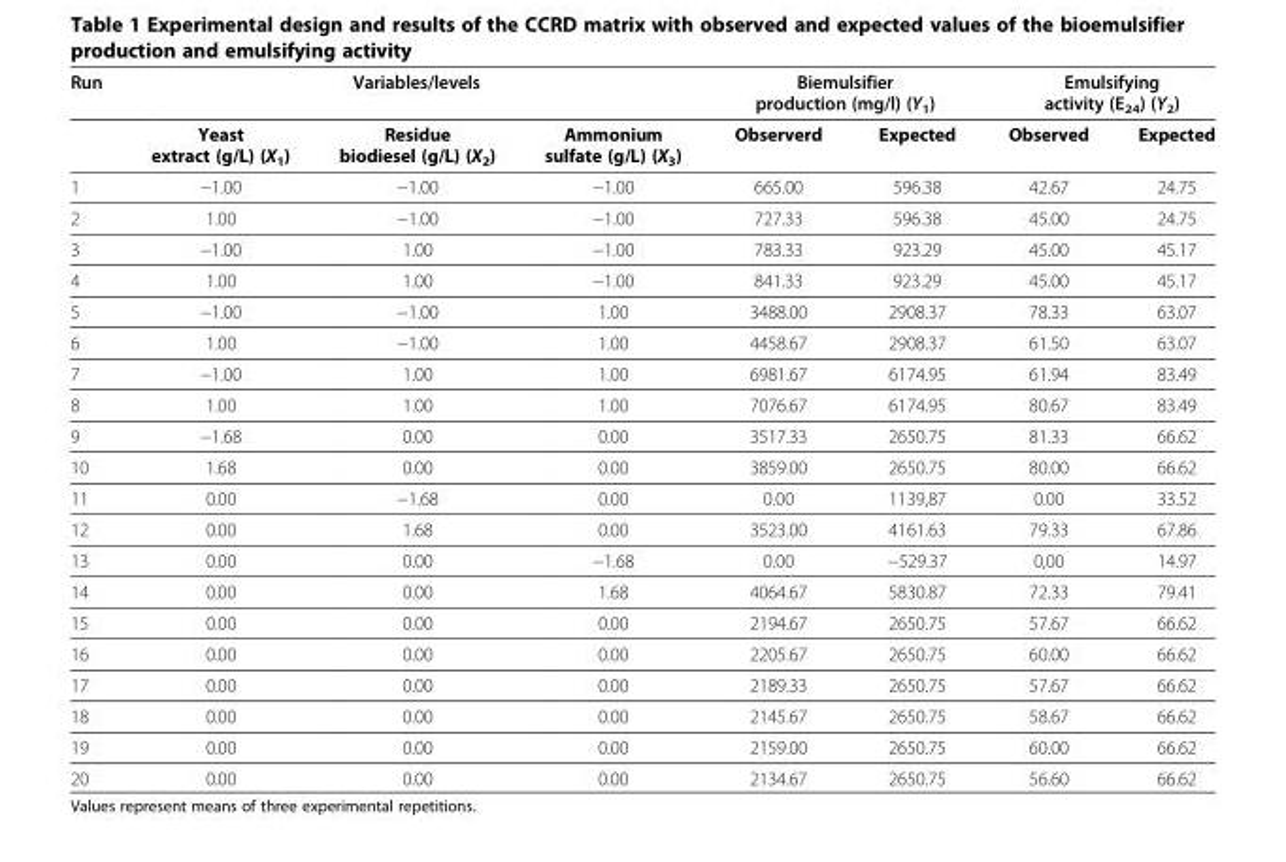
<table><thead><tr><td rowspan="2">Run</td><td colspan="3">Variables/levels</td><td colspan="2">Biemulsifier production (mg/l) (Y<sub>1</sub>)</td><td colspan="2">Emulsifying activity (E<sub>24</sub>) (Y<sub>2</sub>)</td></tr><tr><td>Yeast extract (g/L) (X<sub>1</sub>)</td><td>Residue biodiesel (g/L) (X<sub>2</sub>)</td><td>Ammonium sulfate (g/L) (X<sub>3</sub>)</td><td>Observerd</td><td>Expected</td><td>Observed</td><td>Expected</td></tr></thead><tbody><tr><td>1</td><td>−1.00</td><td>−1.00</td><td>−1.00</td><td>665.00</td><td>596.38</td><td>42.67</td><td>24.75</td></tr><tr><td>2</td><td>1.00</td><td>−1.00</td><td>−1.00</td><td>727.33</td><td>596.38</td><td>45.00</td><td>24.75</td></tr><tr><td>3</td><td>−1.00</td><td>1.00</td><td>−1.00</td><td>783.33</td><td>923.29</td><td>45.00</td><td>45.17</td></tr><tr><td>4</td><td>1.00</td><td>1.00</td><td>−1.00</td><td>841.33</td><td>923.29</td><td>45.00</td><td>45.17</td></tr><tr><td>5</td><td>−1.00</td><td>−1.00</td><td>1.00</td><td>3488.00</td><td>2908.37</td><td>78.33</td><td>63.07</td></tr><tr><td>6</td><td>1.00</td><td>−1.00</td><td>1.00</td><td>4458.67</td><td>2908.37</td><td>61.50</td><td>63.07</td></tr><tr><td>7</td><td>−1.00</td><td>1.00</td><td>1.00</td><td>6981.67</td><td>6174.95</td><td>61.94</td><td>83.49</td></tr><tr><td>8</td><td>1.00</td><td>1.00</td><td>1.00</td><td>7076.67</td><td>6174.95</td><td>80.67</td><td>83.49</td></tr><tr><td>9</td><td>−1.68</td><td>0.00</td><td>0.00</td><td>3517.33</td><td>2650.75</td><td>81.33</td><td>66.62</td></tr><tr><td>10</td><td>1.68</td><td>0.00</td><td>0.00</td><td>3859.00</td><td>2650.75</td><td>80.00</td><td>66.62</td></tr><tr><td>11</td><td>0.00</td><td>−1.68</td><td>0.00</td><td>0.00</td><td>1139,87</td><td>0.00</td><td>33.52</td></tr><tr><td>12</td><td>0.00</td><td>1.68</td><td>0.00</td><td>3523.00</td><td>4161.63</td><td>79.33</td><td>67.86</td></tr><tr><td>13</td><td>0.00</td><td>0.00</td><td>−1.68</td><td>0.00</td><td>−529.37</td><td>0,00</td><td>14.97</td></tr><tr><td>14</td><td>0.00</td><td>0.00</td><td>1.68</td><td>4064.67</td><td>5830.87</td><td>72.33</td><td>79.41</td></tr><tr><td>15</td><td>0.00</td><td>0.00</td><td>0.00</td><td>2194.67</td><td>2650.75</td><td>57.67</td><td>66.62</td></tr><tr><td>16</td><td>0.00</td><td>0.00</td><td>0.00</td><td>2205.67</td><td>2650.75</td><td>60.00</td><td>66.62</td></tr><tr><td>17</td><td>0.00</td><td>0.00</td><td>0.00</td><td>2189.33</td><td>2650.75</td><td>57.67</td><td>66.62</td></tr><tr><td>18</td><td>0.00</td><td>0.00</td><td>0.00</td><td>2145.67</td><td>2650.75</td><td>58.67</td><td>66.62</td></tr><tr><td>19</td><td>0.00</td><td>0.00</td><td>0.00</td><td>2159.00</td><td>2650.75</td><td>60.00</td><td>66.62</td></tr><tr><td>20</td><td>0.00</td><td>0.00</td><td>0.00</td><td>2134.67</td><td>2650.75</td><td>56.60</td><td>66.62</td></tr></tbody></table>